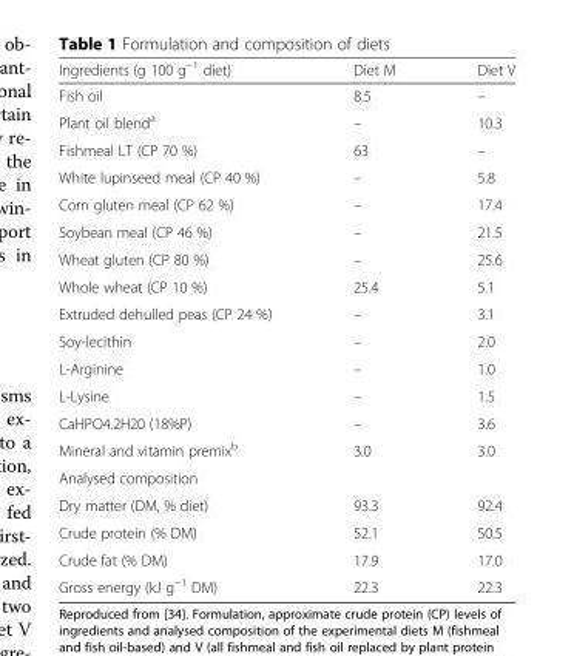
<table><thead><tr><td>Ingredients (g 100 g<sup>−1</sup> diet)</td><td>Diet M</td><td>Diet V</td></tr></thead><tbody><tr><td>Fish oil</td><td>8.5</td><td>–</td></tr><tr><td>Plant oil blend<sup>a</sup></td><td>–</td><td>10.3</td></tr><tr><td>Fishmeal LT (CP 70 %)</td><td>63</td><td>–</td></tr><tr><td>White lupinseed meal (CP 40 %)</td><td>–</td><td>5.8</td></tr><tr><td>Corn gluten meal (CP 62 %)</td><td>–</td><td>17.4</td></tr><tr><td>Soybean meal (CP 46 %)</td><td>–</td><td>21.5</td></tr><tr><td>Wheat gluten (CP 80 %)</td><td>–</td><td>25.6</td></tr><tr><td>Whole wheat (CP 10 %)</td><td>25.4</td><td>5.1</td></tr><tr><td>Extruded dehulled peas (CP 24 %)</td><td>–</td><td>3.1</td></tr><tr><td>Soy-lecithin</td><td>–</td><td>2.0</td></tr><tr><td>L-Arginine</td><td>–</td><td>1.0</td></tr><tr><td>L-Lysine</td><td>–</td><td>1.5</td></tr><tr><td>CaHPO4.2H20 (18%P)</td><td>–</td><td>3.6</td></tr><tr><td>Mineral and vitamin premix<sup>b</sup></td><td>3.0</td><td>3.0</td></tr><tr><td colspan="3">Analysed composition</td></tr><tr><td>Dry matter (DM, % diet)</td><td>93.3</td><td>92.4</td></tr><tr><td>Crude protein (% DM)</td><td>52.1</td><td>50.5</td></tr><tr><td>Crude fat (% DM)</td><td>17.9</td><td>17.0</td></tr><tr><td>Gross energy (kJ g<sup>−1</sup> DM)</td><td>22.3</td><td>22.3</td></tr></tbody></table>